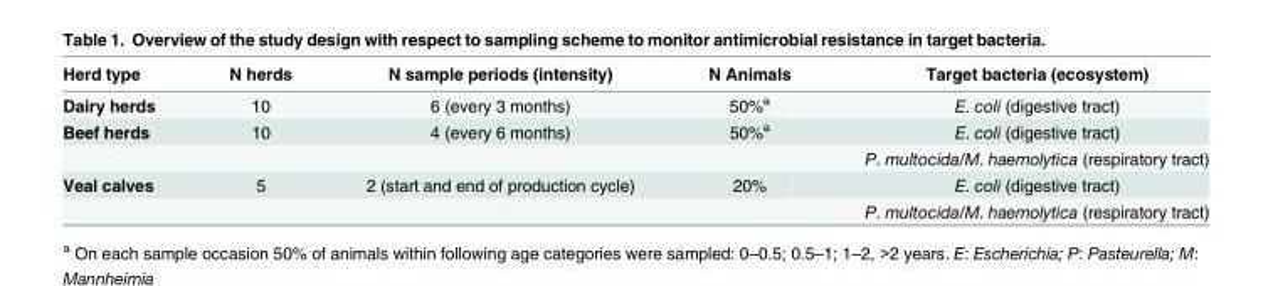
<table><thead><tr><td>Herd type</td><td>N herds</td><td>N sample periods (intensity)</td><td>N Animals</td><td>Target bacteria (ecosystem)</td></tr></thead><tbody><tr><td>Dairy herds</td><td>10</td><td>6 (every 3 months)</td><td>50%<sup>a</sup></td><td>E. coli (digestive tract)</td></tr><tr><td rowspan="2">Beef herds</td><td>10</td><td>4 (every 6 months)</td><td>50%<sup>a</sup></td><td>E. coli (digestive tract)</td></tr><tr><td></td><td></td><td></td><td>P. multocida/M. haemolytica (respiratory tract)</td></tr><tr><td rowspan="2">Veal calves</td><td>5</td><td>2 (start and end of production cycle)</td><td>20%</td><td>E. coli (digestive tract)</td></tr><tr><td></td><td></td><td></td><td>P. multocida/M. haemolytica (respiratory tract)</td></tr></tbody></table>